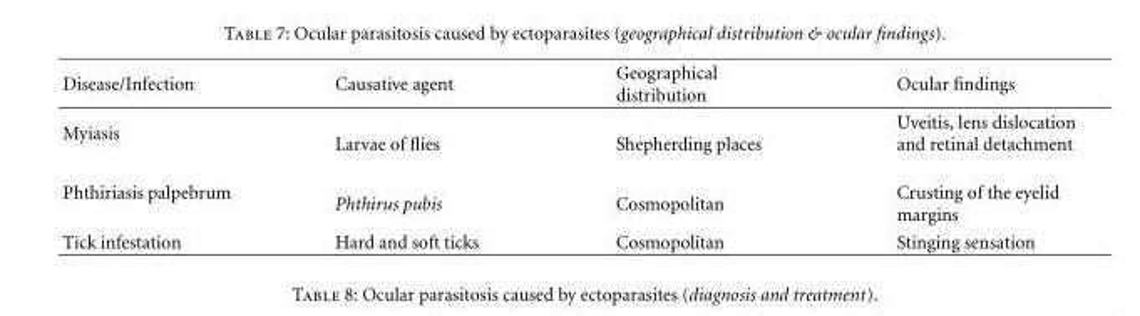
<table><thead><tr><td>Disease/Infection</td><td>Causative agent</td><td>Geographical distribution</td><td>Ocular findings</td></tr></thead><tbody><tr><td>Myiasis</td><td>Larvae of flies</td><td>Shepherding places</td><td>Uveitis, lens dislocation and retinal detachment</td></tr><tr><td>Phthiriasis palpebrum</td><td>Phthirus pubis</td><td>Cosmopolitan</td><td>Crusting of the eyelid margins</td></tr><tr><td>Tick infestation</td><td>Hard and soft ticks</td><td>Cosmopolitan</td><td>Stinging sensation</td></tr></tbody></table>